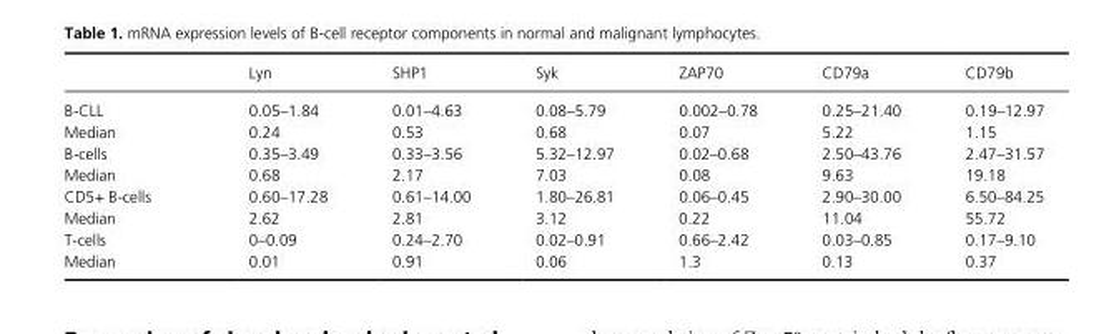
<table><thead><tr><td></td><td>Lyn</td><td>SHP1</td><td>Syk</td><td>ZAP70</td><td>CD79a</td><td>CD79b</td></tr></thead><tbody><tr><td>B- CLL</td><td>0.05–1.84</td><td>0.01–4.63</td><td>0.08–5.79</td><td>0.002–0.78</td><td>0.25–21.40</td><td>0.19–12.97</td></tr><tr><td>Median</td><td>0.24</td><td>0.53</td><td>0.68</td><td>0.07</td><td>5.22</td><td>1.15</td></tr><tr><td>B- cells</td><td>0.35–3.49</td><td>0.33–3.56</td><td>5.32–12.97</td><td>0.02–0.68</td><td>2.50–43.76</td><td>2.47–31.57</td></tr><tr><td>Median</td><td>0.68</td><td>2.17</td><td>7.03</td><td>0.08</td><td>9.63</td><td>19.18</td></tr><tr><td>CD5+ B- cells</td><td>0.60–17.28</td><td>0.61–14.00</td><td>1.80–26.81</td><td>0.06–0.45</td><td>2.90–30.00</td><td>6.50–84.25</td></tr><tr><td>Median</td><td>2.62</td><td>2.81</td><td>3.12</td><td>0.22</td><td>11.04</td><td>55.72</td></tr><tr><td>T- cells</td><td>0–0.09</td><td>0.24–2.70</td><td>0.02–0.91</td><td>0.66–2.42</td><td>0.03–0.85</td><td>0.17–9.10</td></tr><tr><td>Median</td><td>0.01</td><td>0.91</td><td>0.06</td><td>1.3</td><td>0.13</td><td>0.37</td></tr></tbody></table>